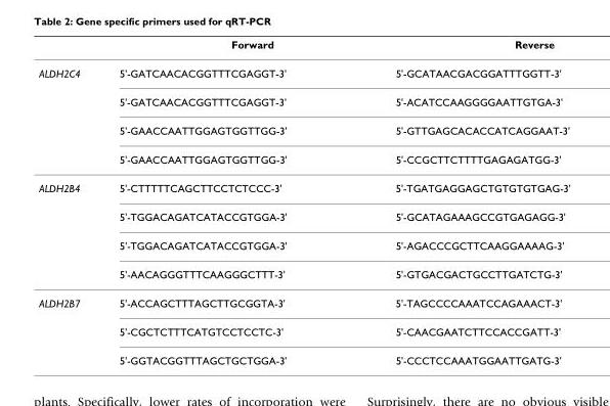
<table><thead><tr><td></td><td>Forward</td><td>Reverse</td></tr></thead><tbody><tr><td rowspan="4">ALDH2C4</td><td>5&#x27;-GATCAACACGGTTTCGAGGT-3&#x27;</td><td>5&#x27;-GCATAACGACGGATTTGGTT-3&#x27;</td></tr><tr><td>5&#x27;-GATCAACACGGTTTCGAGGT-3&#x27;</td><td>5&#x27;-ACATCCAAGGGGAATTGTGA-3&#x27;</td></tr><tr><td>5&#x27;-GAACCAATTGGAGTGGTTGG-3&#x27;</td><td>5&#x27;-GTTGAGCACACCATCAGGAAT-3&#x27;</td></tr><tr><td>5&#x27;-GAACCAATTGGAGTGGTTGG-3&#x27;</td><td>5&#x27;-CCGCTTCTTTTGAGAGATGG-3&#x27;</td></tr><tr><td rowspan="4">ALDH2B4</td><td>5&#x27;-CTTTTTCAGCTTCCTCTCCC-3&#x27;</td><td>5&#x27;-TGATGAGGAGCTGTGTGTGAG-3&#x27;</td></tr><tr><td>5&#x27;-TGGACAGATCATACCGTGGA-3&#x27;</td><td>5&#x27;-GCATAGAAAGCCGTGAGAGG-3&#x27;</td></tr><tr><td>5&#x27;-TGGACAGATCATACCGTGGA-3&#x27;</td><td>5&#x27;-AGACCCGCTTCAAGGAAAAG-3&#x27;</td></tr><tr><td>5&#x27;-AACAGGGTTTCAAGGGCTTT-3&#x27;</td><td>5&#x27;-GTGACGACTGCCTTGATCTG-3&#x27;</td></tr><tr><td rowspan="3">ALDH2B7</td><td>5&#x27;-ACCAGCTTTAGCTTGCGGTA-3&#x27;</td><td>5&#x27;-TAGCCCCAAATCCAGAAACT-3&#x27;</td></tr><tr><td>5&#x27;-CGCTCTTTCATGTCCTCCTC-3&#x27;</td><td>5&#x27;-CAACGAATCTTCCACCGATT-3&#x27;</td></tr><tr><td>5&#x27;-GGTACGGTTTAGCTGCTGGA-3&#x27;</td><td>5&#x27;-CCCTCCAAATGGAATTGATG-3&#x27;</td></tr></tbody></table>